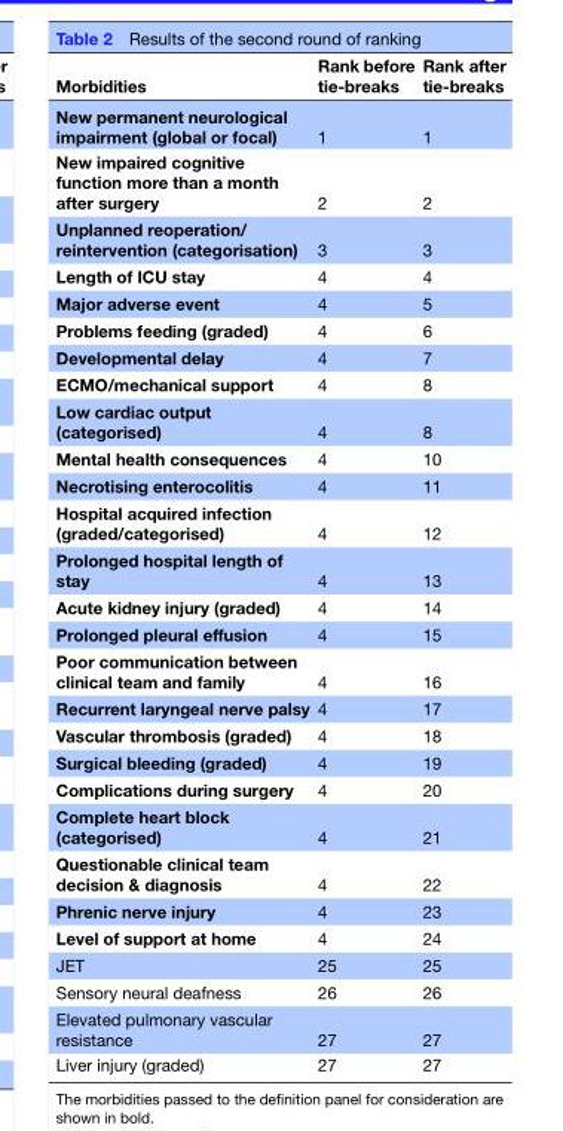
<table><thead><tr><td>Morbidities</td><td>Rank before tie-breaks</td><td>Rank after tie-breaks</td></tr></thead><tbody><tr><td>New permanent neurological impairment (global or focal)</td><td>1</td><td>1</td></tr><tr><td>New impaired cognitive function more than a month after surgery</td><td>2</td><td>2</td></tr><tr><td>Unplanned reoperation/ reintervention (categorisation)</td><td>3</td><td>3</td></tr><tr><td>Length of ICU stay</td><td>4</td><td>4</td></tr><tr><td>Major adverse event</td><td>4</td><td>5</td></tr><tr><td>Problems feeding (graded)</td><td>4</td><td>6</td></tr><tr><td>Developmental delay</td><td>4</td><td>7</td></tr><tr><td>ECMO/mechanical support</td><td>4</td><td>8</td></tr><tr><td>Low cardiac output (categorised)</td><td>4</td><td>8</td></tr><tr><td>Mental health consequences</td><td>4</td><td>10</td></tr><tr><td>Necrotising enterocolitis</td><td>4</td><td>11</td></tr><tr><td>Hospital acquired infection (graded/categorised)</td><td>4</td><td>12</td></tr><tr><td>Prolonged hospital length of stay</td><td>4</td><td>13</td></tr><tr><td>Acute kidney injury (graded)</td><td>4</td><td>14</td></tr><tr><td>Prolonged pleural effusion</td><td>4</td><td>15</td></tr><tr><td>Poor communication between clinical team and family</td><td>4</td><td>16</td></tr><tr><td>Recurrent laryngeal nerve palsy</td><td>4</td><td>17</td></tr><tr><td>Vascular thrombosis (graded)</td><td>4</td><td>18</td></tr><tr><td>Surgical bleeding (graded)</td><td>4</td><td>19</td></tr><tr><td>Complications during surgery</td><td>4</td><td>20</td></tr><tr><td>Complete heart block (categorised)</td><td>4</td><td>21</td></tr><tr><td>Questionable clinical team decision &amp; diagnosis</td><td>4</td><td>22</td></tr><tr><td>Phrenic nerve injury</td><td>4</td><td>23</td></tr><tr><td>Level of support at home</td><td>4</td><td>24</td></tr><tr><td>JET</td><td>25</td><td>25</td></tr><tr><td>Sensory neural deafness</td><td>26</td><td>26</td></tr><tr><td>Elevated pulmonary vascular resistance</td><td>27</td><td>27</td></tr><tr><td>Liver injury (graded)</td><td>27</td><td>27</td></tr></tbody></table>